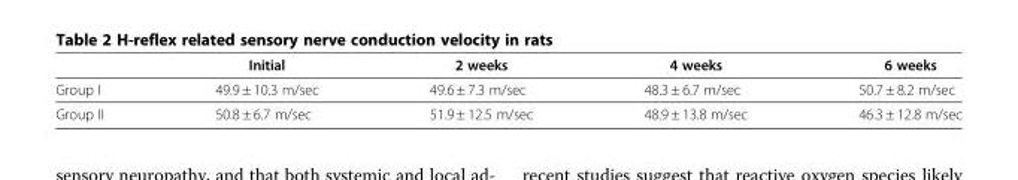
<table><thead><tr><td></td><td>Initial</td><td>2 weeks</td><td>4 weeks</td><td>6 weeks</td></tr></thead><tbody><tr><td>Group I</td><td>49.9 ± 10.3 m/sec</td><td>49.6 ± 7.3 m/sec</td><td>48.3 ± 6.7 m/sec</td><td>50.7 ± 8.2 m/sec</td></tr><tr><td>Group II</td><td>50.8 ± 6.7 m/sec</td><td>51.9 ± 12.5 m/sec</td><td>48.9 ± 13.8 m/sec</td><td>46.3 ± 12.8 m/sec</td></tr></tbody></table>